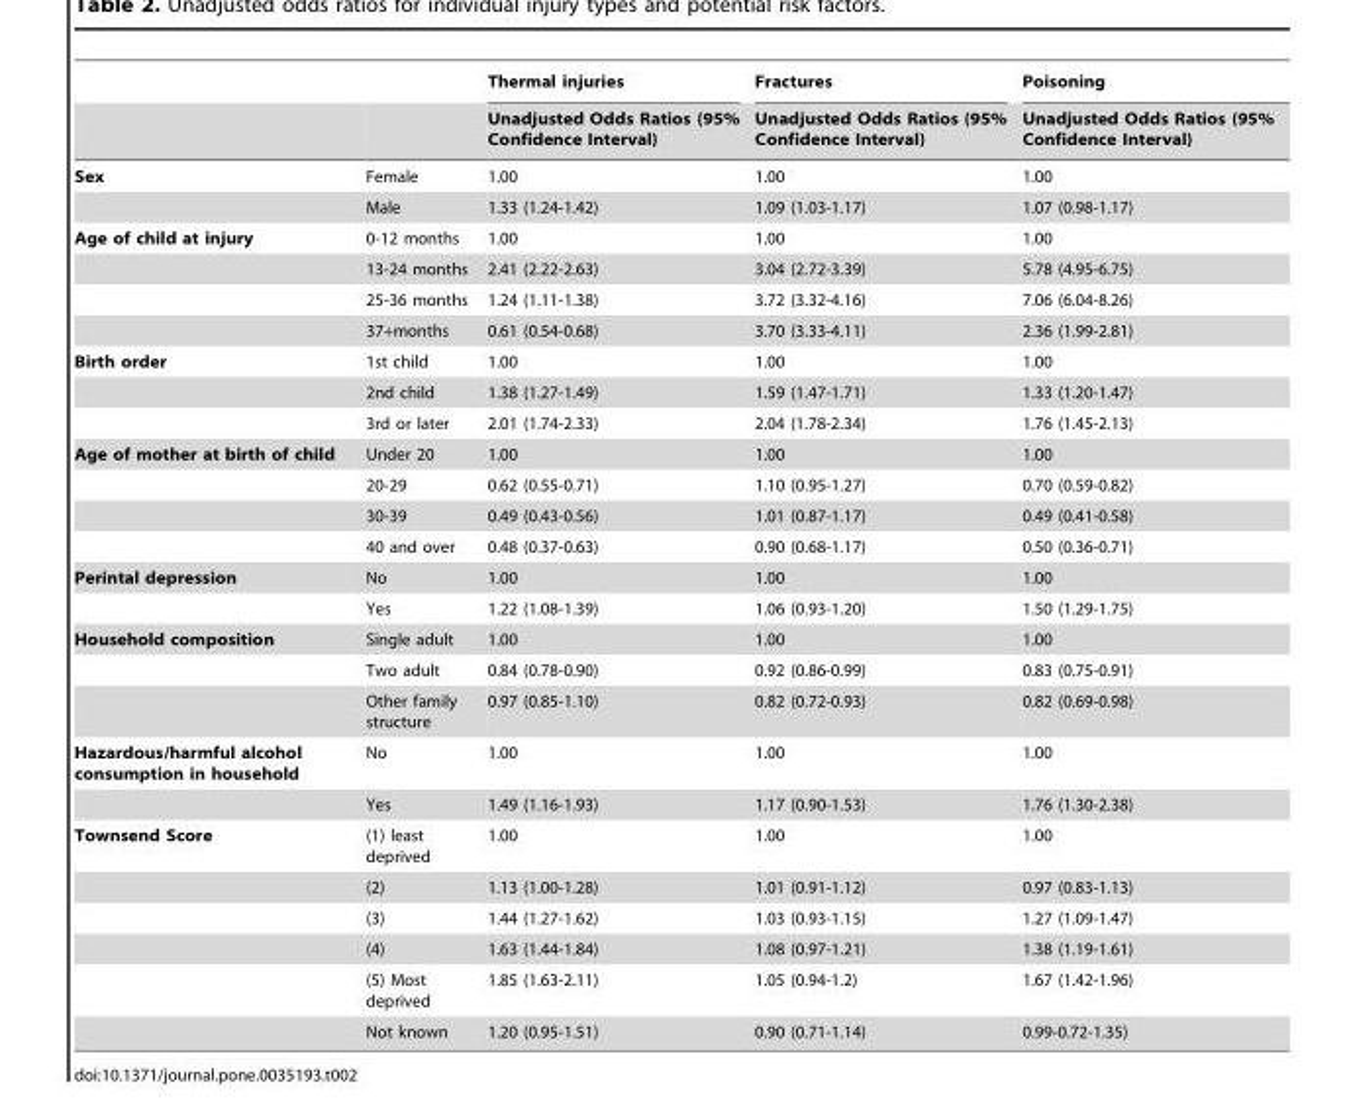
<table><thead><tr><td rowspan="2"></td><td rowspan="2"></td><td rowspan="2">Thermal injuries Unadjusted Odds Ratios (95% Confidence Interval)</td><td rowspan="2">Fractures Unadjusted Odds Ratios (95% Confidence Interval)</td><td rowspan="2">Poisoning Unadjusted Odds Ratios (95% Confidence Interval)</td></tr><tr></tr></thead><tbody><tr><td rowspan="2">Sex</td><td>Female</td><td>1.00</td><td>1.00</td><td>1.00</td></tr><tr><td>Male</td><td>1.33 (1.24-1.42)</td><td>1.09 (1.03-1.17)</td><td>1.07 (0.98-1.17)</td></tr><tr><td rowspan="4">Age of child at injury</td><td>0-12 months</td><td>1.00</td><td>1.00</td><td>1.00</td></tr><tr><td>13-24 months</td><td>2.41 (2.22-2.63)</td><td>3.04 (2.72-3.39)</td><td>5.78 (4.95-6.75)</td></tr><tr><td>25-36 months</td><td>1.24 (1.11-1.38)</td><td>3.72 (3.32-4.16)</td><td>7.06 (6.04-8.26)</td></tr><tr><td>37+months</td><td>0.61 (0.54-0.68)</td><td>3.70 (3.33-4.11)</td><td>2.36 (1.99-2.81)</td></tr><tr><td rowspan="3">Birth order</td><td>1st child</td><td>1.00</td><td>1.00</td><td>1.00</td></tr><tr><td>2nd child</td><td>1.38 (1.27-1.49)</td><td>1.59 (1.47-1.71)</td><td>1.33 (1.20-1.47)</td></tr><tr><td>3rd or later</td><td>2.01 (1.74-2.33)</td><td>2.04 (1.78-2.34)</td><td>1.76 (1.45-2.13)</td></tr><tr><td rowspan="4">Age of mother at birth of child</td><td>Under 20</td><td>1.00</td><td>1.00</td><td>1.00</td></tr><tr><td>20-29</td><td>0.62 (0.55-0.71)</td><td>1.10 (0.95-1.27)</td><td>0.70 (0.59-0.82)</td></tr><tr><td>30-39</td><td>0.49 (0.43-0.56)</td><td>1.01 (0.87-1.17)</td><td>0.49 (0.41-0.58)</td></tr><tr><td>40 and over</td><td>0.48 (0.37-0.63)</td><td>0.90 (0.68-1.17)</td><td>0.50 (0.36-0.71)</td></tr><tr><td rowspan="2">Perintal depression</td><td>No</td><td>1.00</td><td>1.00</td><td>1.00</td></tr><tr><td>Yes</td><td>1.22 (1.08-1.39)</td><td>1.06 (0.93-1.20)</td><td>1.50 (1.29-1.75)</td></tr><tr><td rowspan="3">Household composition</td><td>Single adult</td><td>1.00</td><td>1.00</td><td>1.00</td></tr><tr><td>Two adult</td><td>0.84 (0.78-0.90)</td><td>0.92 (0.86-0.99)</td><td>0.83 (0.75-0.91)</td></tr><tr><td>Other family structure</td><td>0.97 (0.85-1.10)</td><td>0.82 (0.72-0.93)</td><td>0.82 (0.69-0.98)</td></tr><tr><td rowspan="2">Hazardous/harmful alcohol consumption in household</td><td>No</td><td>1.00</td><td>1.00</td><td>1.00</td></tr><tr><td>Yes</td><td>1.49 (1.16-1.93)</td><td>1.17 (0.90-1.53)</td><td>1.76 (1.30-2.38)</td></tr><tr><td rowspan="6">Townsend Score</td><td>(1) least deprived</td><td>1.00</td><td>1.00</td><td>1.00</td></tr><tr><td>(2)</td><td>1.13 (1.00-1.28)</td><td>1.01 (0.91-1.12)</td><td>0.97 (0.83-1.13)</td></tr><tr><td>(3)</td><td>1.44 (1.27-1.62)</td><td>1.03 (0.93-1.15)</td><td>1.27 (1.09-1.47)</td></tr><tr><td>(4)</td><td>1.63 (1.44-1.84)</td><td>1.08 (0.97-1.21)</td><td>1.38 (1.19-1.61)</td></tr><tr><td>(5) Most deprived</td><td>1.85 (1.63-2.11)</td><td>1.05 (0.94-1.2)</td><td>1.67 (1.42-1.96)</td></tr><tr><td>Not known</td><td>1.20 (0.95-1.51)</td><td>0.90 (0.71-1.14)</td><td>0.99-0.72-1.35)</td></tr></tbody></table>